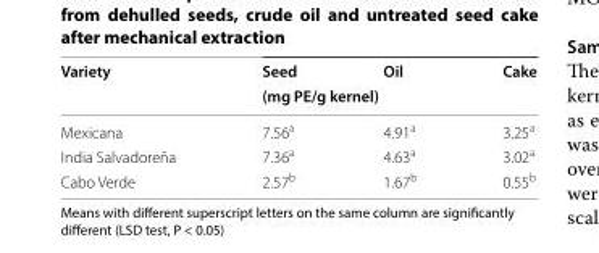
<table><thead><tr><td rowspan="2">Variety</td><td>Seed</td><td>Oil</td><td>Cake</td></tr><tr><td colspan="3">(mg PE/g kernel)</td></tr></thead><tbody><tr><td>Mexicana</td><td>7.56<sup>a</sup></td><td>4.91<sup>a</sup></td><td>3.25<sup>a</sup></td></tr><tr><td>India Salvadoreña</td><td>7.36<sup>a</sup></td><td>4.63<sup>a</sup></td><td>3.02<sup>a</sup></td></tr><tr><td>Cabo Verde</td><td>2.57<sup>b</sup></td><td>1.67<sup>b</sup></td><td>0.55<sup>b</sup></td></tr></tbody></table>